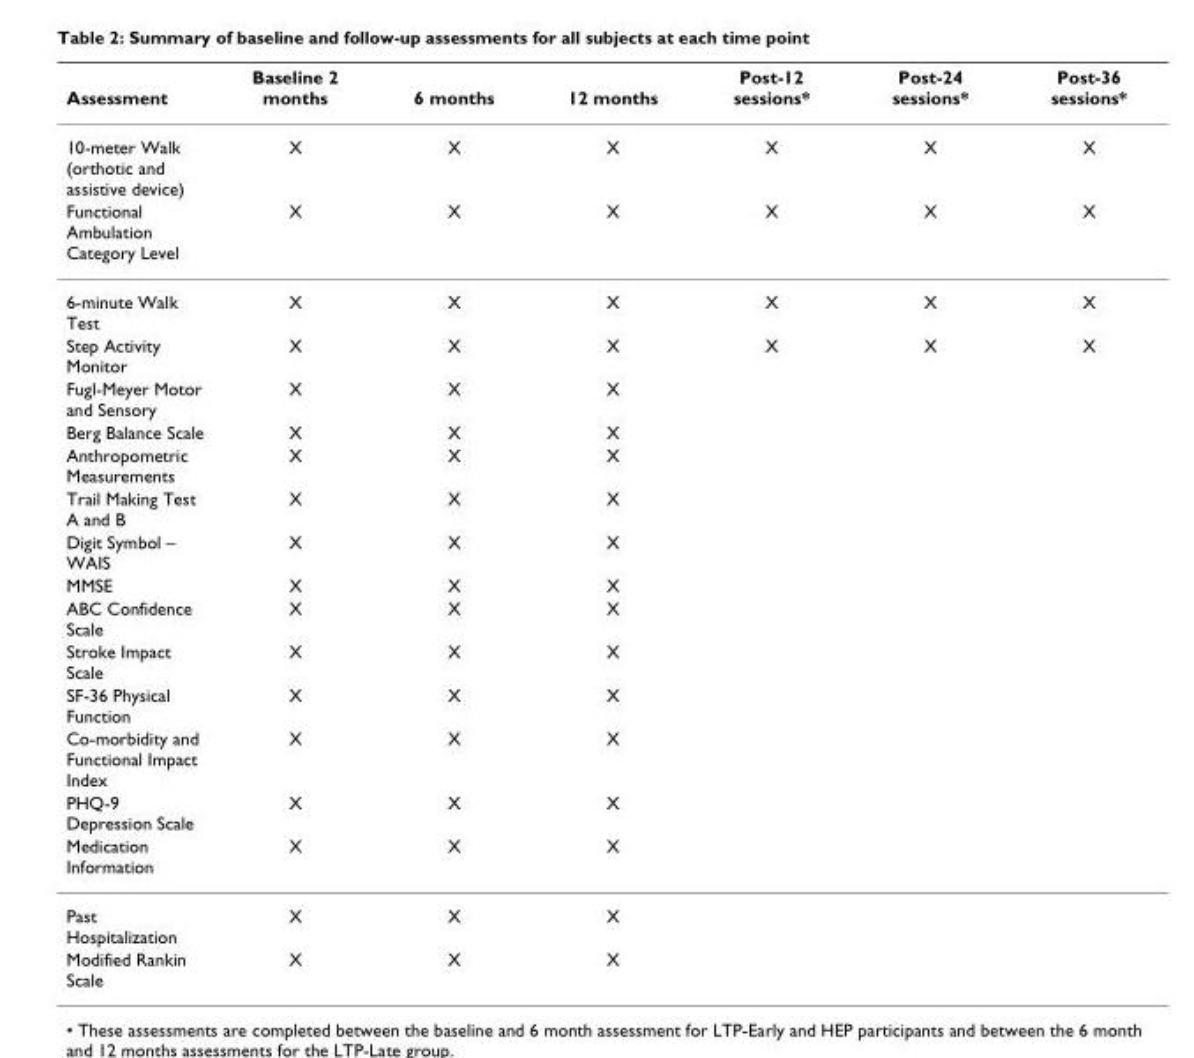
<table><thead><tr><td>Assessment</td><td>Baseline 2 months</td><td>6 months</td><td>12 months</td><td>Post-12 sessions*</td><td>Post-24 sessions*</td><td>Post-36 sessions*</td></tr></thead><tbody><tr><td>10-meter Walk (orthotic and assistive device)</td><td>X</td><td>X</td><td>X</td><td>X</td><td>X</td><td>X</td></tr><tr><td>Functional Ambulation Category Level</td><td>X</td><td>X</td><td>X</td><td>X</td><td>X</td><td>X</td></tr><tr><td>6-minute Walk Test</td><td>X</td><td>X</td><td>X</td><td>X</td><td>X</td><td>X</td></tr><tr><td>Step Activity Monitor</td><td>X</td><td>X</td><td>X</td><td>X</td><td>X</td><td>X</td></tr><tr><td>Fugl-Meyer Motor and Sensory</td><td>X</td><td>X</td><td>X</td><td></td><td></td><td></td></tr><tr><td>Berg Balance Scale</td><td>X</td><td>X</td><td>X</td><td></td><td></td><td></td></tr><tr><td>Anthropometric Measurements</td><td>X</td><td>X</td><td>X</td><td></td><td></td><td></td></tr><tr><td>Trail Making Test A and B</td><td>X</td><td>X</td><td>X</td><td></td><td></td><td></td></tr><tr><td>Digit Symbol – WAIS</td><td>X</td><td>X</td><td>X</td><td></td><td></td><td></td></tr><tr><td>MMSE</td><td>X</td><td>X</td><td>X</td><td></td><td></td><td></td></tr><tr><td>ABC Confidence Scale</td><td>X</td><td>X</td><td>X</td><td></td><td></td><td></td></tr><tr><td>Stroke Impact Scale</td><td>X</td><td>X</td><td>X</td><td></td><td></td><td></td></tr><tr><td>SF-36 Physical Function</td><td>X</td><td>X</td><td>X</td><td></td><td></td><td></td></tr><tr><td>Co-morbidity and Functional Impact Index</td><td>X</td><td>X</td><td>X</td><td></td><td></td><td></td></tr><tr><td>PHQ-9 Depression Scale</td><td>X</td><td>X</td><td>X</td><td></td><td></td><td></td></tr><tr><td>Medication Information</td><td>X</td><td>X</td><td>X</td><td></td><td></td><td></td></tr><tr><td>Past Hospitalization</td><td>X</td><td>X</td><td>X</td><td></td><td></td><td></td></tr><tr><td>Modified Rankin Scale</td><td>X</td><td>X</td><td>X</td><td></td><td></td><td></td></tr></tbody></table>